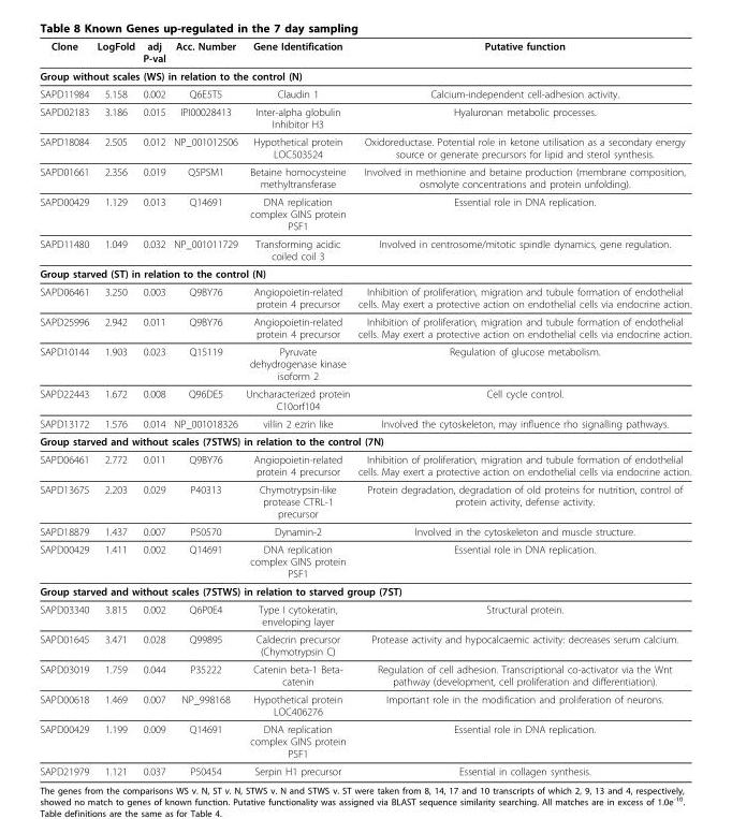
<table><thead><tr><td>Clone</td><td>LogFold</td><td>adj P-val</td><td>Acc. Number</td><td>Gene Identification</td><td>Putative function</td></tr></thead><tbody><tr><td colspan="6">Group without scales (WS) in relation to the control (N)</td></tr><tr><td>SAPD11984</td><td>5.158</td><td>0.002</td><td>Q6E5T5</td><td>Claudin 1</td><td>Calcium-independent cell-adhesion activity.</td></tr><tr><td>SAPD02183</td><td>3.186</td><td>0.015</td><td>IPI00028413</td><td>Inter-alpha globulin Inhibitor H3</td><td>Hyaluronan metabolic processes.</td></tr><tr><td>SAPD18084</td><td>2.505</td><td>0.012</td><td>NP_001012506</td><td>Hypothetical protein LOC503524</td><td>Oxidoreductase. Potential role in ketone utilisation as a secondary energy source or generate precursors for lipid and sterol synthesis.</td></tr><tr><td>SAPD01661</td><td>2.356</td><td>0.019</td><td>Q5PSM1</td><td>Betaine homocysteine methyltransferase</td><td>Involved in methionine and betaine production (membrane composition, osmolyte concentrations and protein unfolding).</td></tr><tr><td>SAPD00429</td><td>1.129</td><td>0.013</td><td>Q14691</td><td>DNA replication complex GINS protein PSF1</td><td>Essential role in DNA replication.</td></tr><tr><td>SAPD11480</td><td>1.049</td><td>0.032</td><td>NP_001011729</td><td>Transforming acidic coiled coil 3</td><td>Involved in centrosome/mitotic spindle dynamics, gene regulation.</td></tr><tr><td colspan="6">Group starved (ST) in relation to the control (N)</td></tr><tr><td>SAPD06461</td><td>3.250</td><td>0.003</td><td>Q9BY76</td><td>Angiopoietin-related protein 4 precursor</td><td>Inhibition of proliferation, migration and tubule formation of endothelial cells. May exert a protective action on endothelial cells via endocrine action.</td></tr><tr><td>SAPD25996</td><td>2.942</td><td>0.011</td><td>Q9BY76</td><td>Angiopoietin-related protein 4 precursor</td><td>Inhibition of proliferation, migration and tubule formation of endothelial cells. May exert a protective action on endothelial cells via endocrine action.</td></tr><tr><td>SAPD10144</td><td>1.903</td><td>0.023</td><td>Q15119</td><td>Pyruvate dehydrogenase kinase isoform 2</td><td>Regulation of glucose metabolism.</td></tr><tr><td>SAPD22443</td><td>1.672</td><td>0.008</td><td>Q96DE5</td><td>Uncharacterized protein C10orf104</td><td>Cell cycle control.</td></tr><tr><td>SAPD13172</td><td>1.576</td><td>0.014</td><td>NP_001018326</td><td>villin 2 ezrin like</td><td>Involved the cytoskeleton, may influence rho signalling pathways.</td></tr><tr><td colspan="6">Group starved and without scales (7STWS) in relation to the control (7N)</td></tr><tr><td>SAPD06461</td><td>2.772</td><td>0.011</td><td>Q9BY76</td><td>Angiopoietin-related protein 4 precursor</td><td>Inhibition of proliferation, migration and tubule formation of endothelial cells. May exert a protective action on endothelial cells via endocrine action.</td></tr><tr><td>SAPD13675</td><td>2.203</td><td>0.029</td><td>P40313</td><td>Chymotrypsin-like protease CTRL-1 precursor</td><td>Protein degradation, degradation of old proteins for nutrition, control of protein activity, defense activity.</td></tr><tr><td>SAPD18879</td><td>1.437</td><td>0.007</td><td>P50570</td><td>Dynamin-2</td><td>Involved in the cytoskeleton and muscle structure.</td></tr><tr><td>SAPD00429</td><td>1.411</td><td>0.002</td><td>Q14691</td><td>DNA replication complex GINS protein PSF1</td><td>Essential role in DNA replication.</td></tr><tr><td colspan="6">Group starved and without scales (7STWS) in relation to starved group (7ST)</td></tr><tr><td>SAPD03340</td><td>3.815</td><td>0.002</td><td>Q6P0E4</td><td>Type I cytokeratin, enveloping layer</td><td>Structural protein.</td></tr><tr><td>SAPD01645</td><td>3.471</td><td>0.028</td><td>Q99895</td><td>Caldecrin precursor (Chymotrypsin C)</td><td>Protease activity and hypocalcaemic activity: decreases serum calcium.</td></tr><tr><td>SAPD03019</td><td>1.759</td><td>0.044</td><td>P35222</td><td>Catenin beta-1 Beta- catenin</td><td>Regulation of cell adhesion. Transcriptional co-activator via the Wnt pathway (development, cell proliferation and differentiation).</td></tr><tr><td>SAPD00618</td><td>1.469</td><td>0.007</td><td>NP_998168</td><td>Hypothetical protein LOC406276</td><td>Important role in the modification and proliferation of neurons.</td></tr><tr><td>SAPD00429</td><td>1.199</td><td>0.009</td><td>Q14691</td><td>DNA replication complex GINS protein PSF1</td><td>Essential role in DNA replication.</td></tr><tr><td>SAPD21979</td><td>1.121</td><td>0.037</td><td>P50454</td><td>Serpin H1 precursor</td><td>Essential in collagen synthesis.</td></tr></tbody></table>